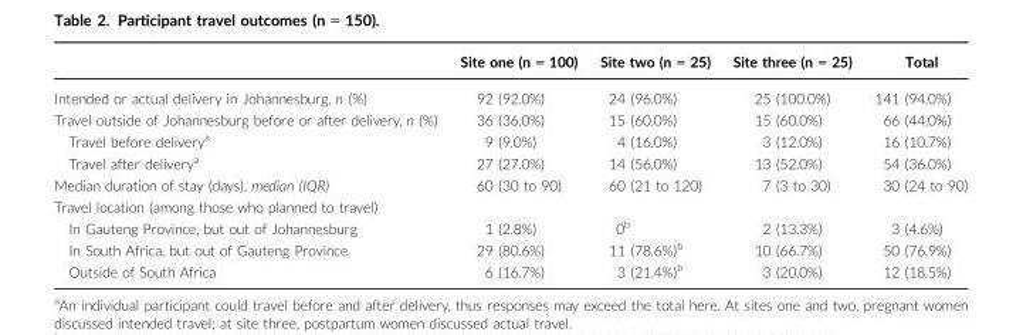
<table><thead><tr><td></td><td>Site one (n = 100)</td><td>Site two (n = 25)</td><td>Site three (n = 25)</td><td>Total</td></tr></thead><tbody><tr><td>Intended or actual delivery in Johannesburg, n (%)</td><td>92 (92.0%)</td><td>24 (96.0%)</td><td>25 (100.0%)</td><td>141 (94.0%)</td></tr><tr><td>Travel outside of Johannesburg before or after delivery, n (%)</td><td>36 (36.0%)</td><td>15 (60.0%)</td><td>15 (60.0%)</td><td>66 (44.0%)</td></tr><tr><td>Travel before delivery<sup>a</sup></td><td>9 (9.0%)</td><td>4 (16.0%)</td><td>3 (12.0%)</td><td>16 (10.7%)</td></tr><tr><td>Travel after delivery<sup>a</sup></td><td>27 (27.0%)</td><td>14 (56.0%)</td><td>13 (52.0%)</td><td>54 (36.0%)</td></tr><tr><td>Median duration of stay (days), median (IQR)</td><td>60 (30 to 90)</td><td>60 (21 to 120)</td><td>7 (3 to 30)</td><td>30 (24 to 90)</td></tr><tr><td colspan="5">Travel location (among those who planned to travel)</td></tr><tr><td>In Gauteng Province, but out of Johannesburg</td><td>1 (2.8%)</td><td>0<sup>b</sup></td><td>2 (13.3%)</td><td>3 (4.6%)</td></tr><tr><td>In South Africa, but out of Gauteng Province</td><td>29 (80.6%)</td><td>11 (78.6%)<sup>b</sup></td><td>10 (66.7%)</td><td>50 (76.9%)</td></tr><tr><td>Outside of South Africa</td><td>6 (16.7%)</td><td>3 (21.4%)<sup>b</sup></td><td>3 (20.0%)</td><td>12 (18.5%)</td></tr></tbody></table>